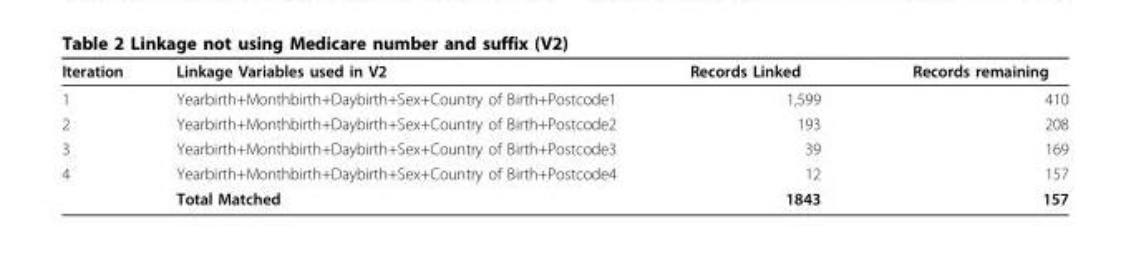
<table><thead><tr><td>Iteration</td><td>Linkage Variables used in V2</td><td>Records Linked</td><td>Records remaining</td></tr></thead><tbody><tr><td>1</td><td>Yearbirth+Monthbirth+Daybirth+Sex+Country of Birth+Postcode1</td><td>1,599</td><td>410</td></tr><tr><td>2</td><td>Yearbirth+Monthbirth+Daybirth+Sex+Country of Birth+Postcode2</td><td>193</td><td>208</td></tr><tr><td>3</td><td>Yearbirth+Monthbirth+Daybirth+Sex+Country of Birth+Postcode3</td><td>39</td><td>169</td></tr><tr><td rowspan="2">4</td><td>Yearbirth+Monthbirth+Daybirth+Sex+Country of Birth+Postcode4</td><td>12</td><td>157</td></tr><tr><td>Total Matched</td><td>1843</td><td>157</td></tr></tbody></table>